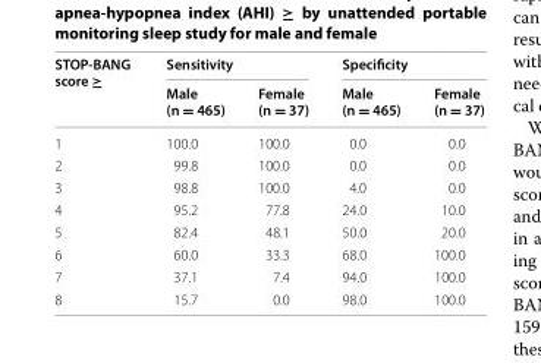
<table><thead><tr><td rowspan="2">STOP-BANG score ≥</td><td colspan="2">Sensitivity</td><td colspan="2">Specificity</td></tr><tr><td>Male (n = 465)</td><td>Female (n = 37)</td><td>Male (n = 465)</td><td>Female (n = 37)</td></tr></thead><tbody><tr><td>1</td><td>100.0</td><td>100.0</td><td>0.0</td><td>0.0</td></tr><tr><td>2</td><td>99.8</td><td>100.0</td><td>0.0</td><td>0.0</td></tr><tr><td>3</td><td>98.8</td><td>100.0</td><td>4.0</td><td>0.0</td></tr><tr><td>4</td><td>95.2</td><td>77.8</td><td>24.0</td><td>10.0</td></tr><tr><td>5</td><td>82.4</td><td>48.1</td><td>50.0</td><td>20.0</td></tr><tr><td>6</td><td>60.0</td><td>33.3</td><td>68.0</td><td>100.0</td></tr><tr><td>7</td><td>37.1</td><td>7.4</td><td>94.0</td><td>100.0</td></tr><tr><td>8</td><td>15.7</td><td>0.0</td><td>98.0</td><td>100.0</td></tr></tbody></table>